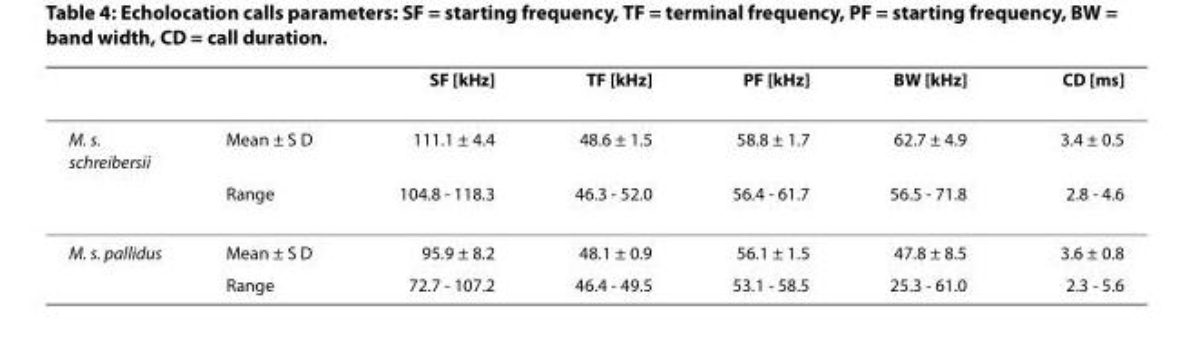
<table><thead><tr><td></td><td></td><td>SF [kHz]</td><td>TF [kHz]</td><td>PF [kHz]</td><td>BW [kHz]</td><td>CD [ms]</td></tr></thead><tbody><tr><td rowspan="2">M. s. schreibersii</td><td>Mean ± S D</td><td>111.1 ± 4.4</td><td>48.6 ± 1.5</td><td>58.8 ± 1.7</td><td>62.7 ± 4.9</td><td>3.4 ± 0.5</td></tr><tr><td>Range</td><td>104.8 - 118.3</td><td>46.3 - 52.0</td><td>56.4 - 61.7</td><td>56.5 - 71.8</td><td>2.8 - 4.6</td></tr><tr><td rowspan="2">M. s. pallidus</td><td>Mean ± S D</td><td>95.9 ± 8.2</td><td>48.1 ± 0.9</td><td>56.1 ± 1.5</td><td>47.8 ± 8.5</td><td>3.6 ± 0.8</td></tr><tr><td>Range</td><td>72.7 - 107.2</td><td>46.4 - 49.5</td><td>53.1 - 58.5</td><td>25.3 - 61.0</td><td>2.3 - 5.6</td></tr></tbody></table>